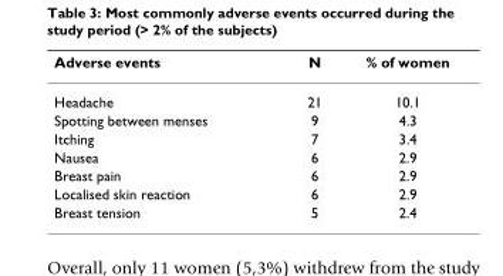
<table><thead><tr><td>Adverse events</td><td>N</td><td>% of women</td></tr></thead><tbody><tr><td>Headache</td><td>21</td><td>10.1</td></tr><tr><td>Spotting between menses</td><td>9</td><td>4.3</td></tr><tr><td>Itching</td><td>7</td><td>3.4</td></tr><tr><td>Nausea</td><td>6</td><td>2.9</td></tr><tr><td>Breast pain</td><td>6</td><td>2.9</td></tr><tr><td>Localised skin reaction</td><td>6</td><td>2.9</td></tr><tr><td>Breast tension</td><td>5</td><td>2.4</td></tr></tbody></table>